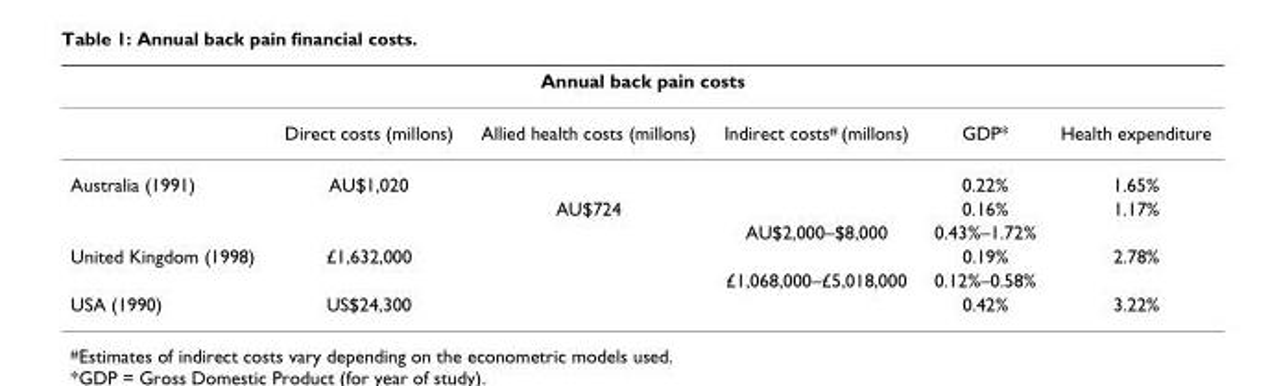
<table><thead><tr><td colspan="6">Annual back pain costs</td></tr><tr><td></td><td>Direct costs (millons)</td><td>Allied health costs (millons)</td><td>Indirect costs<sup>#</sup> (millons)</td><td>GDP*</td><td>Health expenditure</td></tr></thead><tbody><tr><td rowspan="3">Australia (1991)</td><td>AU$1,020</td><td></td><td></td><td>0.22%</td><td>1.65%</td></tr><tr><td></td><td>AU$724</td><td></td><td>0.16%</td><td>1.17%</td></tr><tr><td></td><td></td><td>AU$2,000–$8,000</td><td>0.43%–1.72%</td><td></td></tr><tr><td rowspan="2">United Kingdom (1998)</td><td>£1,632,000</td><td></td><td></td><td>0.19%</td><td>2.78%</td></tr><tr><td></td><td></td><td>£1,068,000–£5,018,000</td><td>0.12%–0.58%</td><td></td></tr><tr><td>USA (1990)</td><td>US$24,300</td><td></td><td></td><td>0.42%</td><td>3.22%</td></tr></tbody></table>